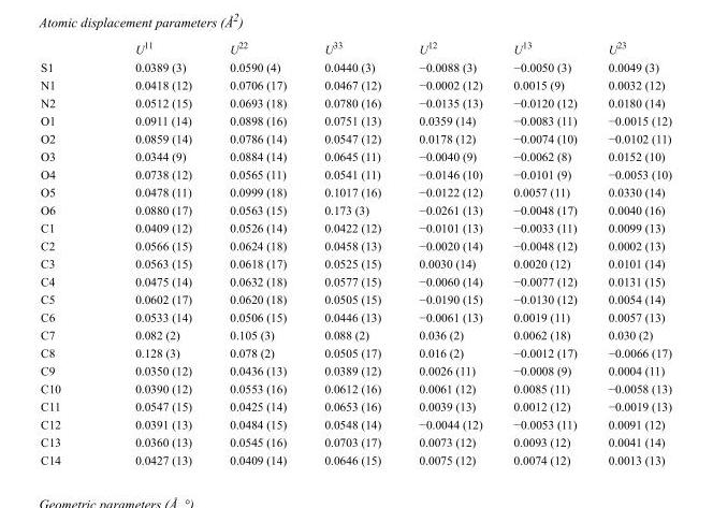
<table><thead><tr><td></td><td>U<sup>11</sup></td><td>U<sup>22</sup></td><td>U<sup>33</sup></td><td>U<sup>12</sup></td><td>U<sup>13</sup></td><td>U<sup>23</sup></td></tr></thead><tbody><tr><td>S1</td><td>0.0389 (3)</td><td>0.0590 (4)</td><td>0.0440 (3)</td><td>−0.0088 (3)</td><td>−0.0050 (3)</td><td>0.0049 (3)</td></tr><tr><td>N1</td><td>0.0418 (12)</td><td>0.0706 (17)</td><td>0.0467 (12)</td><td>−0.0002 (12)</td><td>0.0015 (9)</td><td>0.0032 (12)</td></tr><tr><td>N2</td><td>0.0512 (15)</td><td>0.0693 (18)</td><td>0.0780 (16)</td><td>−0.0135 (13)</td><td>−0.0120 (12)</td><td>0.0180 (14)</td></tr><tr><td>O1</td><td>0.0911 (14)</td><td>0.0898 (16)</td><td>0.0751 (13)</td><td>0.0359 (14)</td><td>−0.0083 (11)</td><td>−0.0015 (12)</td></tr><tr><td>O2</td><td>0.0859 (14)</td><td>0.0786 (14)</td><td>0.0547 (12)</td><td>0.0178 (12)</td><td>−0.0074 (10)</td><td>−0.0102 (11)</td></tr><tr><td>O3</td><td>0.0344 (9)</td><td>0.0884 (14)</td><td>0.0645 (11)</td><td>−0.0040 (9)</td><td>−0.0062 (8)</td><td>0.0152 (10)</td></tr><tr><td>O4</td><td>0.0738 (12)</td><td>0.0565 (11)</td><td>0.0541 (11)</td><td>−0.0146 (10)</td><td>−0.0101 (9)</td><td>−0.0053 (10)</td></tr><tr><td>O5</td><td>0.0478 (11)</td><td>0.0999 (18)</td><td>0.1017 (16)</td><td>−0.0122 (12)</td><td>0.0057 (11)</td><td>0.0330 (14)</td></tr><tr><td>O6</td><td>0.0880 (17)</td><td>0.0563 (15)</td><td>0.173 (3)</td><td>−0.0261 (13)</td><td>−0.0048 (17)</td><td>0.0040 (16)</td></tr><tr><td>C1</td><td>0.0409 (12)</td><td>0.0526 (14)</td><td>0.0422 (12)</td><td>−0.0101 (13)</td><td>−0.0033 (11)</td><td>0.0099 (13)</td></tr><tr><td>C2</td><td>0.0566 (15)</td><td>0.0624 (18)</td><td>0.0458 (13)</td><td>−0.0020 (14)</td><td>−0.0048 (12)</td><td>0.0002 (13)</td></tr><tr><td>C3</td><td>0.0563 (15)</td><td>0.0618 (17)</td><td>0.0525 (15)</td><td>0.0030 (14)</td><td>0.0020 (12)</td><td>0.0101 (14)</td></tr><tr><td>C4</td><td>0.0475 (14)</td><td>0.0632 (18)</td><td>0.0577 (15)</td><td>−0.0060 (14)</td><td>−0.0077 (12)</td><td>0.0131 (15)</td></tr><tr><td>C5</td><td>0.0602 (17)</td><td>0.0620 (18)</td><td>0.0505 (15)</td><td>−0.0190 (15)</td><td>−0.0130 (12)</td><td>0.0054 (14)</td></tr><tr><td>C6</td><td>0.0533 (14)</td><td>0.0506 (15)</td><td>0.0446 (13)</td><td>−0.0061 (13)</td><td>0.0019 (11)</td><td>0.0057 (13)</td></tr><tr><td>C7</td><td>0.082 (2)</td><td>0.105 (3)</td><td>0.088 (2)</td><td>0.036 (2)</td><td>0.0062 (18)</td><td>0.030 (2)</td></tr><tr><td>C8</td><td>0.128 (3)</td><td>0.078 (2)</td><td>0.0505 (17)</td><td>0.016 (2)</td><td>−0.0012 (17)</td><td>−0.0066 (17)</td></tr><tr><td>C9</td><td>0.0350 (12)</td><td>0.0436 (13)</td><td>0.0389 (12)</td><td>0.0026 (11)</td><td>−0.0008 (9)</td><td>0.0004 (11)</td></tr><tr><td>C10</td><td>0.0390 (12)</td><td>0.0553 (16)</td><td>0.0612 (16)</td><td>0.0061 (12)</td><td>0.0085 (11)</td><td>−0.0058 (13)</td></tr><tr><td>C11</td><td>0.0547 (15)</td><td>0.0425 (14)</td><td>0.0653 (16)</td><td>0.0039 (13)</td><td>0.0012 (12)</td><td>−0.0019 (13)</td></tr><tr><td>C12</td><td>0.0391 (13)</td><td>0.0484 (15)</td><td>0.0548 (14)</td><td>−0.0044 (12)</td><td>−0.0053 (11)</td><td>0.0091 (12)</td></tr><tr><td>C13</td><td>0.0360 (13)</td><td>0.0545 (16)</td><td>0.0703 (17)</td><td>0.0073 (12)</td><td>0.0093 (12)</td><td>0.0041 (14)</td></tr><tr><td>C14</td><td>0.0427 (13)</td><td>0.0409 (14)</td><td>0.0646 (15)</td><td>0.0075 (12)</td><td>0.0074 (12)</td><td>0.0013 (13)</td></tr></tbody></table>